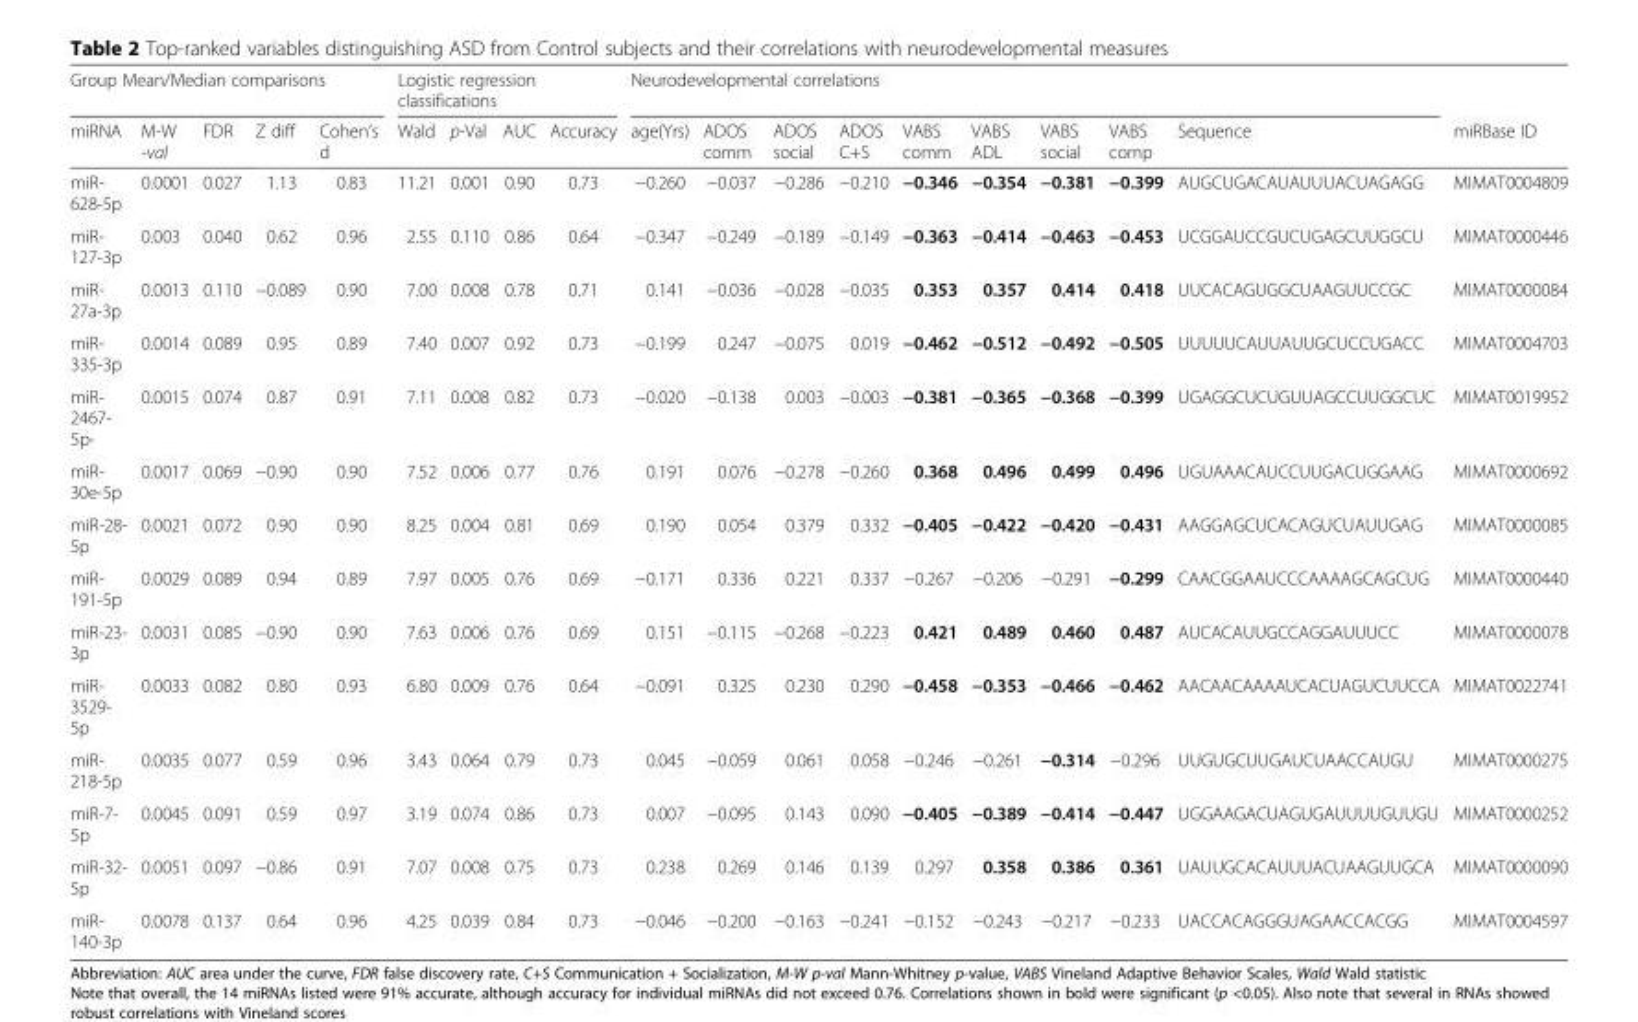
<table><thead><tr><td colspan="5">Group Mean/Median comparisons</td><td colspan="4">Logistic regression classifications</td><td colspan="9">Neurodevelopmental correlations</td><td rowspan="2">miRBase ID</td></tr><tr><td>miRNA</td><td>M-W -val</td><td>FDR</td><td>Z diff</td><td>Cohen’s d</td><td>Wald</td><td>p-Val</td><td>AUC</td><td>Accuracy</td><td>age(Yrs)</td><td>ADOS comm</td><td>ADOS social</td><td>ADOS C+S</td><td>VABS comm</td><td>VABS ADL</td><td>VABS social</td><td>VABS comp</td><td>Sequence</td></tr></thead><tbody><tr><td>miR- 628-5p</td><td>0.0001</td><td>0.027</td><td>1.13</td><td>0.83</td><td>11.21</td><td>0.001</td><td>0.90</td><td>0.73</td><td>−0.260</td><td>−0.037</td><td>−0.286</td><td>−0.210</td><td>−0.346</td><td>−0.354</td><td>−0.381</td><td>−0.399</td><td>AUGCUGACAUAUUUACUAGAGG</td><td>MIMAT0004809</td></tr><tr><td>miR- 127-3p</td><td>0.003</td><td>0.040</td><td>0.62</td><td>0.96</td><td>2.55</td><td>0.110</td><td>0.86</td><td>0.64</td><td>−0.347</td><td>−0.249</td><td>−0.189</td><td>−0.149</td><td>−0.363</td><td>−0.414</td><td>−0.463</td><td>−0.453</td><td>UCGGAUCCGUCUGAGCUUGGCU</td><td>MIMAT0000446</td></tr><tr><td>miR- 27a-3p</td><td>0.0013</td><td>0.110</td><td>−0.089</td><td>0.90</td><td>7.00</td><td>0.008</td><td>0.78</td><td>0.71</td><td>0.141</td><td>−0.036</td><td>−0.028</td><td>−0.035</td><td>0.353</td><td>0.357</td><td>0.414</td><td>0.418</td><td>UUCACAGUGGCUAAGUUCCGC</td><td>MIMAT0000084</td></tr><tr><td>miR- 335-3p</td><td>0.0014</td><td>0.089</td><td>0.95</td><td>0.89</td><td>7.40</td><td>0.007</td><td>0.92</td><td>0.73</td><td>−0.199</td><td>0.247</td><td>−0.075</td><td>0.019</td><td>−0.462</td><td>−0.512</td><td>−0.492</td><td>−0.505</td><td>UUUUUCAUUAUUGCUCCUGACC</td><td>MIMAT0004703</td></tr><tr><td>miR- 2467- 5p-</td><td>0.0015</td><td>0.074</td><td>0.87</td><td>0.91</td><td>7.11</td><td>0.008</td><td>0.82</td><td>0.73</td><td>−0.020</td><td>−0.138</td><td>0.003</td><td>−0.003</td><td>−0.381</td><td>−0.365</td><td>−0.368</td><td>−0.399</td><td>UGAGGCUCUGUUAGCCUUGGCUC</td><td>MIMAT0019952</td></tr><tr><td>miR- 30e-5p</td><td>0.0017</td><td>0.069</td><td>−0.90</td><td>0.90</td><td>7.52</td><td>0.006</td><td>0.77</td><td>0.76</td><td>0.191</td><td>0.076</td><td>−0.278</td><td>−0.260</td><td>0.368</td><td>0.496</td><td>0.499</td><td>0.496</td><td>UGUAAACAUCCUUGACUGGAAG</td><td>MIMAT0000692</td></tr><tr><td>miR-28- 5p</td><td>0.0021</td><td>0.072</td><td>0.90</td><td>0.90</td><td>8.25</td><td>0.004</td><td>0.81</td><td>0.69</td><td>0.190</td><td>0.054</td><td>0.379</td><td>0.332</td><td>−0.405</td><td>−0.422</td><td>−0.420</td><td>−0.431</td><td>AAGGAGCUCACAGUCUAUUGAG</td><td>MIMAT0000085</td></tr><tr><td>miR- 191-5p</td><td>0.0029</td><td>0.089</td><td>0.94</td><td>0.89</td><td>7.97</td><td>0.005</td><td>0.76</td><td>0.69</td><td>−0.171</td><td>0.336</td><td>0.221</td><td>0.337</td><td>−0.267</td><td>−0.206</td><td>−0.291</td><td>−0.299</td><td>CAACGGAAUCCCAAAAGCAGCUG</td><td>MIMAT0000440</td></tr><tr><td>miR-23- 3p</td><td>0.0031</td><td>0.085</td><td>−0.90</td><td>0.90</td><td>7.63</td><td>0.006</td><td>0.76</td><td>0.69</td><td>0.151</td><td>−0.115</td><td>−0.268</td><td>−0.223</td><td>0.421</td><td>0.489</td><td>0.460</td><td>0.487</td><td>AUCACAUUGCCAGGAUUUCC</td><td>MIMAT0000078</td></tr><tr><td>miR- 3529- 5p</td><td>0.0033</td><td>0.082</td><td>0.80</td><td>0.93</td><td>6.80</td><td>0.009</td><td>0.76</td><td>0.64</td><td>−0.091</td><td>0.325</td><td>0.230</td><td>0.290</td><td>−0.458</td><td>−0.353</td><td>−0.466</td><td>−0.462</td><td>AACAACAAAAUCACUAGUCUUCCA</td><td>MIMAT0022741</td></tr><tr><td>miR- 218-5p</td><td>0.0035</td><td>0.077</td><td>0.59</td><td>0.96</td><td>3.43</td><td>0.064</td><td>0.79</td><td>0.73</td><td>0.045</td><td>−0.059</td><td>0.061</td><td>0.058</td><td>−0.246</td><td>−0.261</td><td>−0.314</td><td>−0.296</td><td>UUGUGCUUGAUCUAACCAUGU</td><td>MIMAT0000275</td></tr><tr><td>miR-7- 5p</td><td>0.0045</td><td>0.091</td><td>0.59</td><td>0.97</td><td>3.19</td><td>0.074</td><td>0.86</td><td>0.73</td><td>0.007</td><td>−0.095</td><td>0.143</td><td>0.090</td><td>−0.405</td><td>−0.389</td><td>−0.414</td><td>−0.447</td><td>UGGAAGACUAGUGAUUUUGUUGU</td><td>MIMAT0000252</td></tr><tr><td>miR-32- 5p</td><td>0.0051</td><td>0.097</td><td>−0.86</td><td>0.91</td><td>7.07</td><td>0.008</td><td>0.75</td><td>0.73</td><td>0.238</td><td>0.269</td><td>0.146</td><td>0.139</td><td>0.297</td><td>0.358</td><td>0.386</td><td>0.361</td><td>UAUUGCACAUUUACUAAGUUGCA</td><td>MIMAT0000090</td></tr><tr><td>miR- 140-3p</td><td>0.0078</td><td>0.137</td><td>0.64</td><td>0.96</td><td>4.25</td><td>0.039</td><td>0.84</td><td>0.73</td><td>−0.046</td><td>−0.200</td><td>−0.163</td><td>−0.241</td><td>−0.152</td><td>−0.243</td><td>−0.217</td><td>−0.233</td><td>UACCACAGGGUAGAACCACGG</td><td>MIMAT0004597</td></tr></tbody></table>